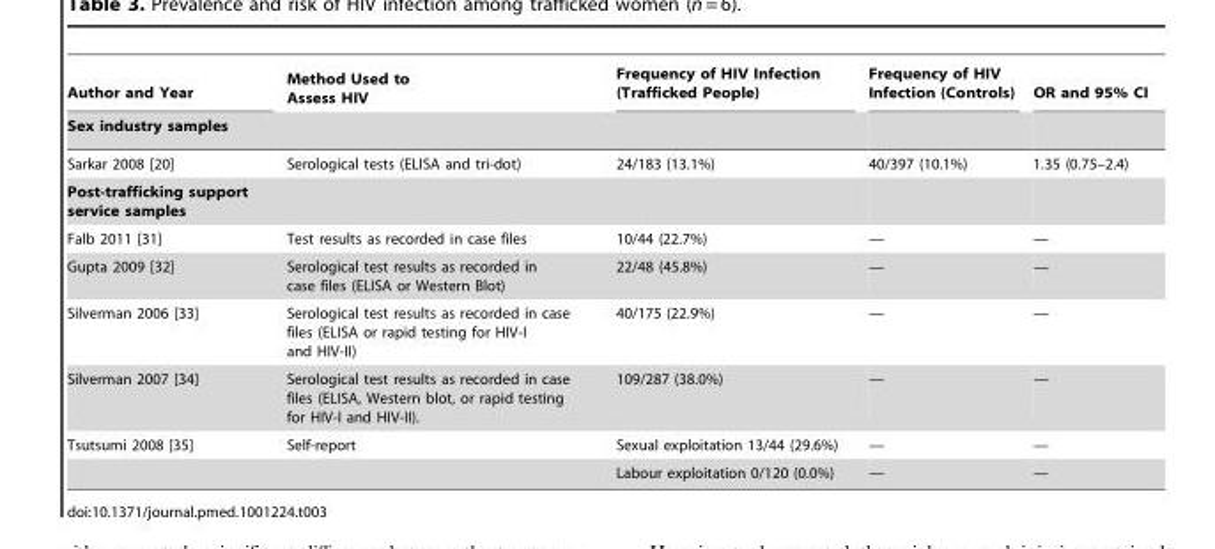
<table><thead><tr><td rowspan="2">Author and Year Sex industry samples</td><td rowspan="2">Method Used to Assess HIV</td><td rowspan="2">Frequency of HIV Infection (Trafficked People)</td><td rowspan="2">Frequency of HIV Infection (Controls)</td><td rowspan="2">OR and 95% CI</td></tr><tr></tr></thead><tbody><tr><td>Sarkar 2008 [20]</td><td>Serological tests (ELISA and tri-dot)</td><td>24/183 (13.1%)</td><td>40/397 (10.1%)</td><td>1.35 (0.75–2.4)</td></tr><tr><td colspan="5">Post-trafficking support service samples</td></tr><tr><td>Falb 2011 [31]</td><td>Test results as recorded in case files</td><td>10/44 (22.7%)</td><td>—</td><td>—</td></tr><tr><td>Gupta 2009 [32]</td><td>Serological test results as recorded in case files (ELISA or Western Blot)</td><td>22/48 (45.8%)</td><td>—</td><td>—</td></tr><tr><td>Silverman 2006 [33]</td><td>Serological test results as recorded in case files (ELISA or rapid testing for HIV-I and HIV-II)</td><td>40/175 (22.9%)</td><td>—</td><td>—</td></tr><tr><td>Silverman 2007 [34]</td><td>Serological test results as recorded in case files (ELISA, Western blot, or rapid testing for HIV-I and HIV-II).</td><td>109/287 (38.0%)</td><td>—</td><td>—</td></tr><tr><td rowspan="2">Tsutsumi 2008 [35]</td><td>Self-report</td><td>Sexual exploitation 13/44 (29.6%)</td><td>—</td><td>—</td></tr><tr><td></td><td>Labour exploitation 0/120 (0.0%)</td><td>—</td><td>—</td></tr></tbody></table>